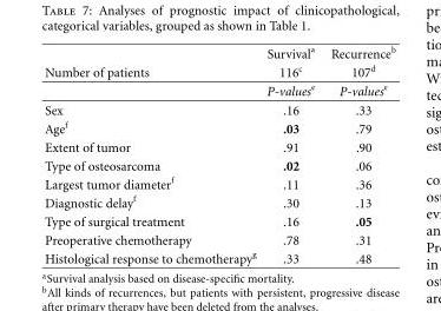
<table><thead><tr><td rowspan="2">Number of patients</td><td rowspan="2">Survivala 116c</td><td rowspan="2">Recurrenceb 107d</td></tr><tr></tr></thead><tbody><tr><td></td><td>P-valuese</td><td>P-valuese</td></tr><tr><td>Sex</td><td>.16</td><td>.33</td></tr><tr><td>Age<sup>f</sup></td><td>.03</td><td>.79</td></tr><tr><td>Extent of tumor</td><td>.91</td><td>.90</td></tr><tr><td>Type of osteosarcoma</td><td>.02</td><td>.06</td></tr><tr><td>Largest tumor diameter<sup>f</sup></td><td>.11</td><td>.36</td></tr><tr><td>Diagnostic delay<sup>f</sup></td><td>.30</td><td>.13</td></tr><tr><td>Type of surgical treatment</td><td>.16</td><td>.05</td></tr><tr><td>Preoperative chemotherapy</td><td>.78</td><td>.31</td></tr><tr><td>Histological response to chemotherapy<sup>g</sup></td><td>.33</td><td>.48</td></tr></tbody></table>